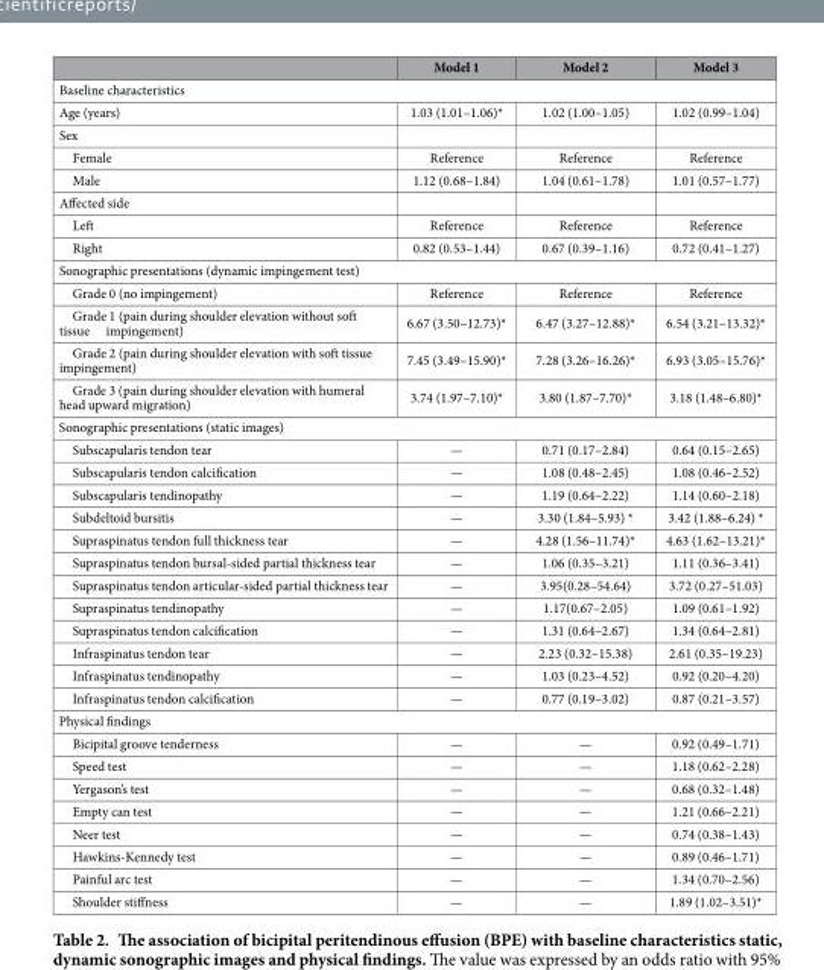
<table><thead><tr><td></td><td>Model 1</td><td>Model 2</td><td>Model 3</td></tr></thead><tbody><tr><td colspan="4">Baseline characteristics</td></tr><tr><td>Age (years)</td><td>1.03 (1.01–1.06)*</td><td>1.02 (1.00–1.05)</td><td>1.02 (0.99–1.04)</td></tr><tr><td colspan="4">Sex</td></tr><tr><td>Female</td><td>Reference</td><td>Reference</td><td>Reference</td></tr><tr><td>Male</td><td>1.12 (0.68–1.84)</td><td>1.04 (0.61–1.78)</td><td>1.01 (0.57–1.77)</td></tr><tr><td colspan="4">Affected side</td></tr><tr><td>Left</td><td>Reference</td><td>Reference</td><td>Reference</td></tr><tr><td>Right</td><td>0.82 (0.53–1.44)</td><td>0.67 (0.39–1.16)</td><td>0.72 (0.41–1.27)</td></tr><tr><td colspan="4">Sonographic presentations (dynamic impingement test)</td></tr><tr><td>Grade 0 (no impingement)</td><td>Reference</td><td>Reference</td><td>Reference</td></tr><tr><td>Grade 1 (pain during shoulder elevation without soft tissue impingement)</td><td>6.67 (3.50–12.73)*</td><td>6.47 (3.27–12.88)*</td><td>6.54 (3.21–13.32)*</td></tr><tr><td>Grade 2 (pain during shoulder elevation with soft tissue impingement)</td><td>7.45 (3.49–15.90)*</td><td>7.28 (3.26–16.26)*</td><td>6.93 (3.05–15.76)*</td></tr><tr><td>Grade 3 (pain during shoulder elevation with humeral head upward migration)</td><td>3.74 (1.97–7.10)*</td><td>3.80 (1.87–7.70)*</td><td>3.18 (1.48–6.80)*</td></tr><tr><td colspan="4">Sonographic presentations (static images)</td></tr><tr><td>Subscapularis tendon tear</td><td>—</td><td>0.71 (0.17–2.84)</td><td>0.64 (0.15–2.65)</td></tr><tr><td>Subscapularis tendon calcification</td><td>—</td><td>1.08 (0.48–2.45)</td><td>1.08 (0.46–2.52)</td></tr><tr><td>Subscapularis tendinopathy</td><td>—</td><td>1.19 (0.64–2.22)</td><td>1.14 (0.60–2.18)</td></tr><tr><td>Subdeltoid bursitis</td><td>—</td><td>3.30 (1.84–5.93) *</td><td>3.42 (1.88–6.24) *</td></tr><tr><td>Supraspinatus tendon full thickness tear</td><td>—</td><td>4.28 (1.56–11.74)*</td><td>4.63 (1.62–13.21)*</td></tr><tr><td>Supraspinatus tendon bursal-sided partial thickness tear</td><td>—</td><td>1.06 (0.35–3.21)</td><td>1.11 (0.36–3.41)</td></tr><tr><td>Supraspinatus tendon articular-sided partial thickness tear</td><td>—</td><td>3.95(0.28–54.64)</td><td>3.72 (0.27–51.03)</td></tr><tr><td>Supraspinatus tendinopathy</td><td>—</td><td>1.17(0.67–2.05)</td><td>1.09 (0.61–1.92)</td></tr><tr><td>Supraspinatus tendon calcification</td><td>—</td><td>1.31 (0.64–2.67)</td><td>1.34 (0.64–2.81)</td></tr><tr><td>Infraspinatus tendon tear</td><td>—</td><td>2.23 (0.32–15.38)</td><td>2.61 (0.35–19.23)</td></tr><tr><td>Infraspinatus tendinopathy</td><td>—</td><td>1.03 (0.23–4.52)</td><td>0.92 (0.20–4.20)</td></tr><tr><td>Infraspinatus tendon calcification</td><td>—</td><td>0.77 (0.19–3.02)</td><td>0.87 (0.21–3.57)</td></tr><tr><td colspan="4">Physical findings</td></tr><tr><td>Bicipital groove tenderness</td><td>—</td><td>—</td><td>0.92 (0.49–1.71)</td></tr><tr><td>Speed test</td><td>—</td><td>—</td><td>1.18 (0.62–2.28)</td></tr><tr><td>Yergason’s test</td><td>—</td><td>—</td><td>0.68 (0.32–1.48)</td></tr><tr><td>Empty can test</td><td>—</td><td>—</td><td>1.21 (0.66–2.21)</td></tr><tr><td>Neer test</td><td>—</td><td>—</td><td>0.74 (0.38–1.43)</td></tr><tr><td>Hawkins-Kennedy test</td><td>—</td><td>—</td><td>0.89 (0.46–1.71)</td></tr><tr><td>Painful arc test</td><td>—</td><td>—</td><td>1.34 (0.70–2.56)</td></tr><tr><td>Shoulder stiffness</td><td>—</td><td>—</td><td>1.89 (1.02–3.51)*</td></tr></tbody></table>